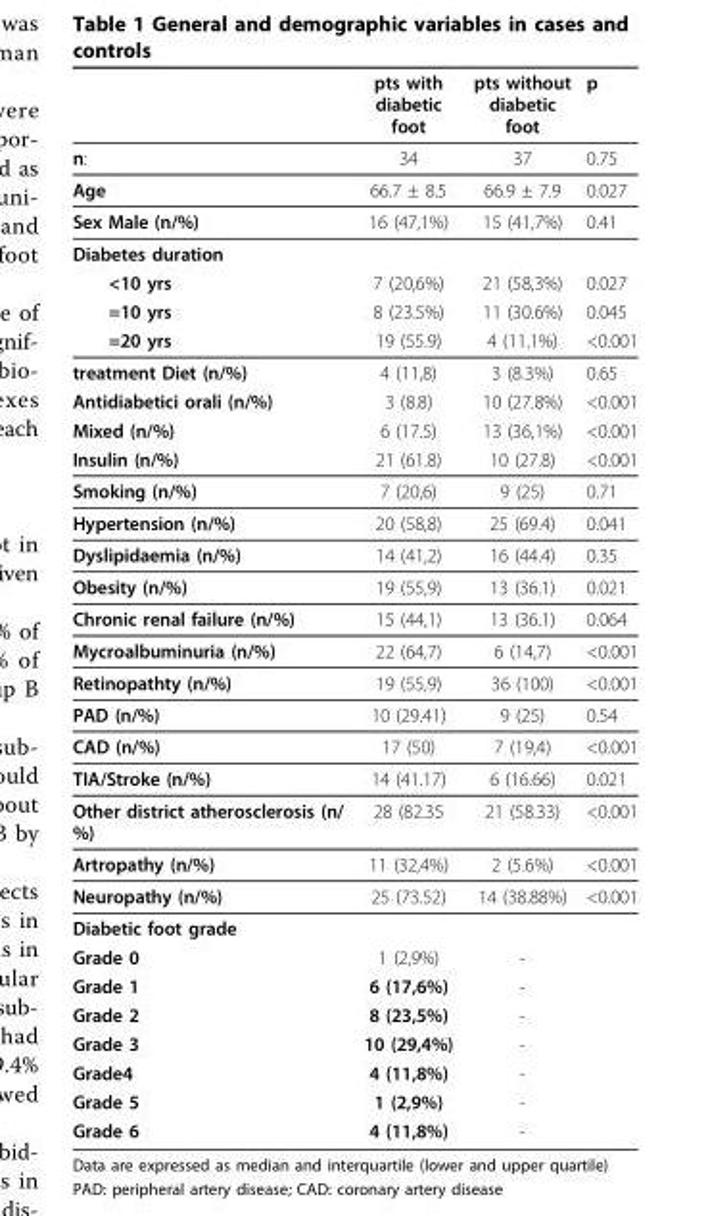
<table><thead><tr><td></td><td>pts with diabetic foot</td><td>pts without diabetic foot</td><td>p</td></tr></thead><tbody><tr><td>n:</td><td>34</td><td>37</td><td>0.75</td></tr><tr><td>Age</td><td>66.7 ± 8.5</td><td>66.9 ± 7.9</td><td>0.027</td></tr><tr><td>Sex Male (n/%)</td><td>16 (47,1%)</td><td>15 (41,7%)</td><td>0.41</td></tr><tr><td colspan="4">Diabetes duration</td></tr><tr><td>&lt;10 yrs</td><td>7 (20,6%)</td><td>21 (58,3%)</td><td>0.027</td></tr><tr><td>=10 yrs</td><td>8 (23.5%)</td><td>11 (30.6%)</td><td>0.045</td></tr><tr><td>=20 yrs</td><td>19 (55.9)</td><td>4 (11.1%)</td><td>&lt;0.001</td></tr><tr><td>treatment Diet (n/%)</td><td>4 (11,8)</td><td>3 (8.3%)</td><td>0.65</td></tr><tr><td>Antidiabetici orali (n/%)</td><td>3 (8.8)</td><td>10 (27.8%)</td><td>&lt;0.001</td></tr><tr><td>Mixed (n/%)</td><td>6 (17.5)</td><td>13 (36,1%)</td><td>&lt;0.001</td></tr><tr><td>Insulin (n/%)</td><td>21 (61.8)</td><td>10 (27.8)</td><td>&lt;0.001</td></tr><tr><td>Smoking (n/%)</td><td>7 (20,6)</td><td>9 (25)</td><td>0.71</td></tr><tr><td>Hypertension (n/%)</td><td>20 (58,8)</td><td>25 (69.4)</td><td>0.041</td></tr><tr><td>Dyslipidaemia (n/%)</td><td>14 (41,2)</td><td>16 (44.4)</td><td>0.35</td></tr><tr><td>Obesity (n/%)</td><td>19 (55,9)</td><td>13 (36.1)</td><td>0.021</td></tr><tr><td>Chronic renal failure (n/%)</td><td>15 (44,1)</td><td>13 (36.1)</td><td>0.064</td></tr><tr><td>Mycroalbuminuria (n/%)</td><td>22 (64,7)</td><td>6 (14,7)</td><td>&lt;0.001</td></tr><tr><td>Retinopathty (n/%)</td><td>19 (55,9)</td><td>36 (100)</td><td>&lt;0.001</td></tr><tr><td>PAD (n/%)</td><td>10 (29.41)</td><td>9 (25)</td><td>0.54</td></tr><tr><td>CAD (n/%)</td><td>17 (50)</td><td>7 (19,4)</td><td>&lt;0.001</td></tr><tr><td>TIA/Stroke (n/%)</td><td>14 (41.17)</td><td>6 (16.66)</td><td>0.021</td></tr><tr><td>Other district atherosclerosis (n/ %)</td><td>28 (82.35</td><td>21 (58.33)</td><td>&lt;0.001</td></tr><tr><td>Artropathy (n/%)</td><td>11 (32,4%)</td><td>2 (5.6%)</td><td>&lt;0.001</td></tr><tr><td>Neuropathy (n/%)</td><td>25 (73.52)</td><td>14 (38.88%)</td><td>&lt;0.001</td></tr><tr><td colspan="4">Diabetic foot grade</td></tr><tr><td>Grade 0</td><td>1 (2,9%)</td><td>-</td><td></td></tr><tr><td>Grade 1</td><td>6 (17,6%)</td><td>-</td><td></td></tr><tr><td>Grade 2</td><td>8 (23,5%)</td><td>-</td><td></td></tr><tr><td>Grade 3</td><td>10 (29,4%)</td><td>-</td><td></td></tr><tr><td>Grade4</td><td>4 (11,8%)</td><td>-</td><td></td></tr><tr><td>Grade 5</td><td>1 (2,9%)</td><td>-</td><td></td></tr><tr><td>Grade 6</td><td>4 (11,8%)</td><td>-</td><td></td></tr></tbody></table>